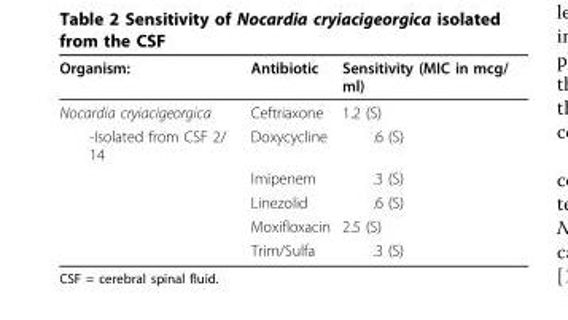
<table><thead><tr><td>Organism:</td><td>Antibiotic</td><td>Sensitivity (MIC in mcg/ ml)</td></tr></thead><tbody><tr><td>Nocardia cryiacigeorgica</td><td>Ceftriaxone</td><td>1.2 (S)</td></tr><tr><td rowspan="5">-Isolated from CSF 2/ 14</td><td>Doxycycline</td><td>.6 (S)</td></tr><tr><td>Imipenem</td><td>.3 (S)</td></tr><tr><td>Linezolid</td><td>.6 (S)</td></tr><tr><td>Moxifloxacin</td><td>2.5 (S)</td></tr><tr><td>Trim/Sulfa</td><td>.3 (S)</td></tr></tbody></table>